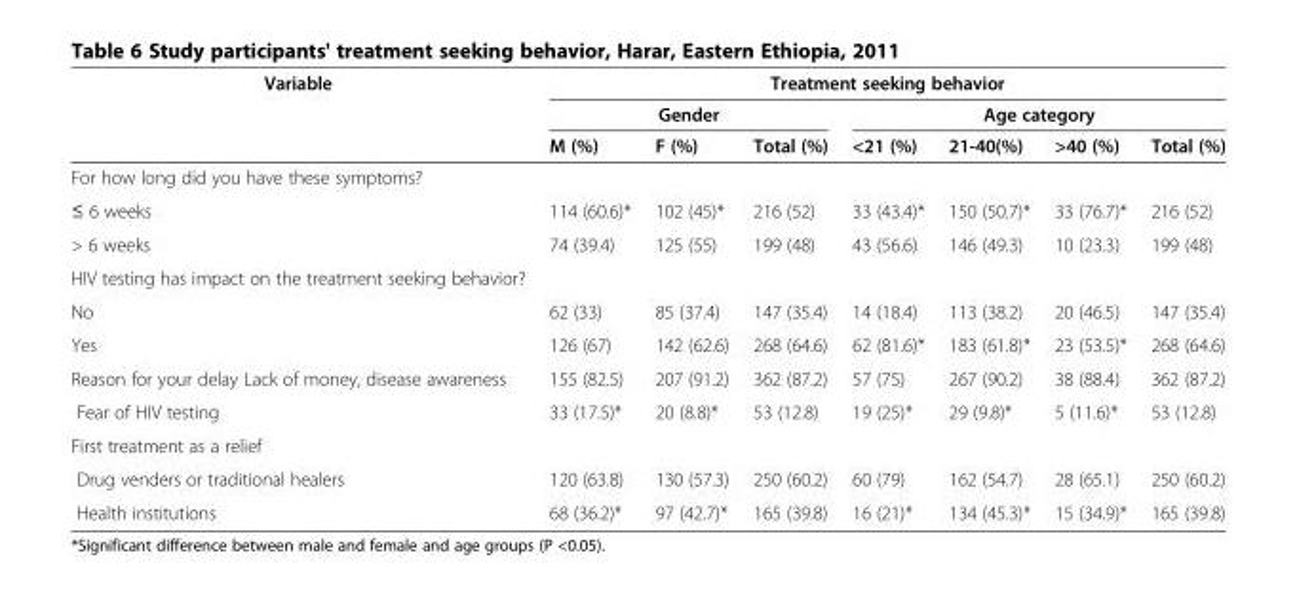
<table><thead><tr><td rowspan="3">Variable</td><td colspan="7">Treatment seeking behavior</td></tr><tr><td rowspan="2">M (%)</td><td rowspan="2">Gender F (%)</td><td rowspan="2">Total (%)</td><td colspan="4">Age category</td></tr><tr><td>&lt;21 (%)</td><td>21-40(%)</td><td>&gt;40 (%)</td><td>Total (%)</td></tr></thead><tbody><tr><td colspan="8">For how long did you have these symptoms?</td></tr><tr><td>≤ 6 weeks</td><td>114 (60.6)*</td><td>102 (45)*</td><td>216 (52)</td><td>33 (43.4)*</td><td>150 (50.7)*</td><td>33 (76.7)*</td><td>216 (52)</td></tr><tr><td>&gt; 6 weeks</td><td>74 (39.4)</td><td>125 (55)</td><td>199 (48)</td><td>43 (56.6)</td><td>146 (49.3)</td><td>10 (23.3)</td><td>199 (48)</td></tr><tr><td colspan="8">HIV testing has impact on the treatment seeking behavior?</td></tr><tr><td>No</td><td>62 (33)</td><td>85 (37.4)</td><td>147 (35.4)</td><td>14 (18.4)</td><td>113 (38.2)</td><td>20 (46.5)</td><td>147 (35.4)</td></tr><tr><td>Yes</td><td>126 (67)</td><td>142 (62.6)</td><td>268 (64.6)</td><td>62 (81.6)*</td><td>183 (61.8)*</td><td>23 (53.5)*</td><td>268 (64.6)</td></tr><tr><td>Reason for your delay Lack of money, disease awareness</td><td>155 (82.5)</td><td>207 (91.2)</td><td>362 (87.2)</td><td>57 (75)</td><td>267 (90.2)</td><td>38 (88.4)</td><td>362 (87.2)</td></tr><tr><td>Fear of HIV testing</td><td>33 (17.5)*</td><td>20 (8.8)*</td><td>53 (12.8)</td><td>19 (25)*</td><td>29 (9.8)*</td><td>5 (11.6)*</td><td>53 (12.8)</td></tr><tr><td colspan="8">First treatment as a relief</td></tr><tr><td>Drug venders or traditional healers</td><td>120 (63.8)</td><td>130 (57.3)</td><td>250 (60.2)</td><td>60 (79)</td><td>162 (54.7)</td><td>28 (65.1)</td><td>250 (60.2)</td></tr><tr><td>Health institutions</td><td>68 (36.2)*</td><td>97 (42.7)*</td><td>165 (39.8)</td><td>16 (21)*</td><td>134 (45.3)*</td><td>15 (34.9)*</td><td>165 (39.8)</td></tr></tbody></table>